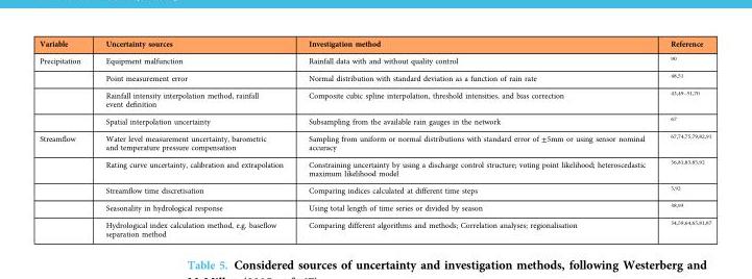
<table><thead><tr><td>Variable</td><td>Uncertainty sources</td><td>Investigation method</td><td>Reference</td></tr></thead><tbody><tr><td rowspan="4">Precipitation</td><td>Equipment malfunction</td><td>Rainfall data with and without quality control</td><td><sup>90</sup></td></tr><tr><td>Point measurement error</td><td>Normal distribution with standard deviation as a function of rain rate</td><td><sup>48,51</sup></td></tr><tr><td>Rainfall intensity interpolation method, rainfall event definition</td><td>Composite cubic spline interpolation, threshold intensities, and bias correction</td><td><sup>43,49–51,70</sup></td></tr><tr><td>Spatial interpolation uncertainty</td><td>Subsampling from the available rain gauges in the network</td><td><sup>67</sup></td></tr><tr><td rowspan="5">Streamflow</td><td>Water level measurement uncertainty, barometric and temperature pressure compensation</td><td>Sampling from uniform or normal distributions with standard error of ±5mm or using sensor nominal accuracy</td><td><sup>67,74,75,79,82,91</sup></td></tr><tr><td>Rating curve uncertainty, calibration and extrapolation</td><td>Constraining uncertainty by using a discharge control structure; voting point likelihood; heteroscedastic maximum likelihood model</td><td><sup>56,81,83,85,92</sup></td></tr><tr><td>Streamflow time discretisation</td><td>Comparing indices calculated at different time steps</td><td><sup>5,92</sup></td></tr><tr><td>Seasonality in hydrological response</td><td>Using total length of time series or divided by season</td><td><sup>38,93</sup></td></tr><tr><td>Hydrological index calculation method, e.g. baseflow separation method</td><td>Comparing different algorithms and methods; Correlation analyses; regionalisation</td><td><sup>34,59,64,65,81,87</sup></td></tr></tbody></table>